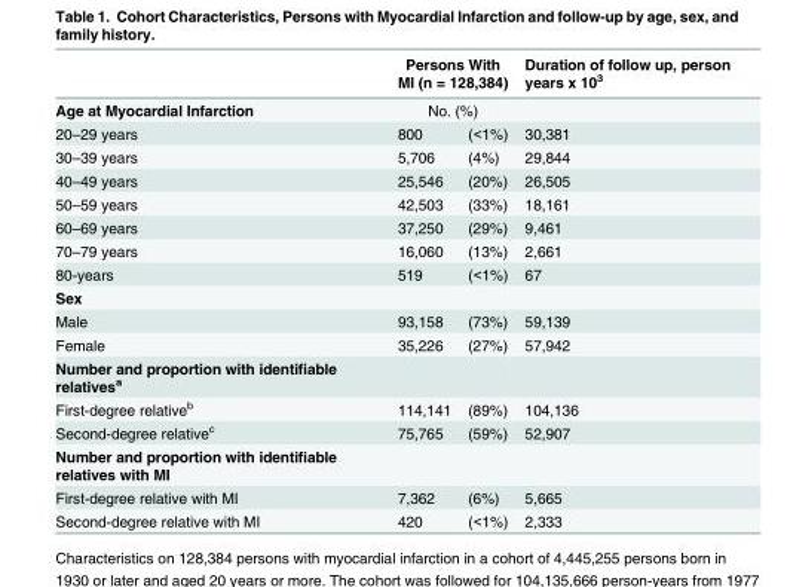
<table><thead><tr><td rowspan="3">Age at Myocardial Infarction 20–29 years</td><td rowspan="2" colspan="2">Persons With MI (n = 128,384) No. (%)</td><td rowspan="3">Duration of follow up, person years x 10<sup>3</sup> 30,381</td></tr><tr></tr><tr><td>800</td><td>(&lt;1%)</td></tr></thead><tbody><tr><td>30–39 years</td><td>5,706</td><td>(4%)</td><td>29,844</td></tr><tr><td>40–49 years</td><td>25,546</td><td>(20%)</td><td>26,505</td></tr><tr><td>50–59 years</td><td>42,503</td><td>(33%)</td><td>18,161</td></tr><tr><td>60–69 years</td><td>37,250</td><td>(29%)</td><td>9,461</td></tr><tr><td>70–79 years</td><td>16,060</td><td>(13%)</td><td>2,661</td></tr><tr><td>80-years</td><td>519</td><td>(&lt;1%)</td><td>67</td></tr><tr><td colspan="4">Sex</td></tr><tr><td>Male</td><td>93,158</td><td>(73%)</td><td>59,139</td></tr><tr><td>Female</td><td>35,226</td><td>(27%)</td><td>57,942</td></tr><tr><td colspan="4">Number and proportion with identifiable relatives<sup>a</sup></td></tr><tr><td>First-degree relative<sup>b</sup></td><td>114,141</td><td>(89%)</td><td>104,136</td></tr><tr><td>Second-degree relative<sup>c</sup></td><td>75,765</td><td>(59%)</td><td>52,907</td></tr><tr><td colspan="4">Number and proportion with identifiable relatives with MI</td></tr><tr><td>First-degree relative with MI</td><td>7,362</td><td>(6%)</td><td>5,665</td></tr><tr><td>Second-degree relative with MI</td><td>420</td><td>(&lt;1%)</td><td>2,333</td></tr></tbody></table>